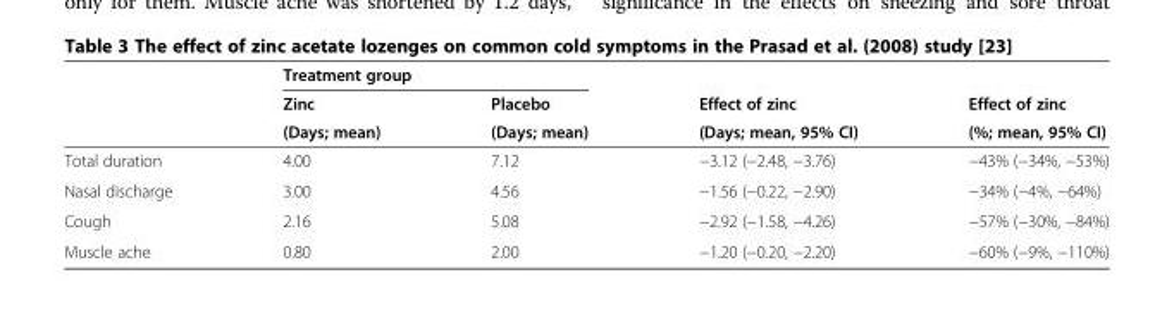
<table><thead><tr><td rowspan="3"></td><td colspan="2">Treatment group</td><td rowspan="3">Effect of zinc (Days; mean, 95% CI)</td><td rowspan="3">Effect of zinc (%; mean, 95% CI)</td></tr><tr><td rowspan="2">Zinc (Days; mean)</td><td rowspan="2">Placebo (Days; mean)</td></tr><tr></tr></thead><tbody><tr><td>Total duration</td><td>4.00</td><td>7.12</td><td>−3.12 (−2.48, −3.76)</td><td>−43% (−34%, −53%)</td></tr><tr><td>Nasal discharge</td><td>3.00</td><td>4.56</td><td>−1.56 (−0.22, −2.90)</td><td>−34% (−4%, −64%)</td></tr><tr><td>Cough</td><td>2.16</td><td>5.08</td><td>−2.92 (−1.58, −4.26)</td><td>−57% (−30%, −84%)</td></tr><tr><td>Muscle ache</td><td>0.80</td><td>2.00</td><td>−1.20 (−0.20, −2.20)</td><td>−60% (−9%, −110%)</td></tr></tbody></table>